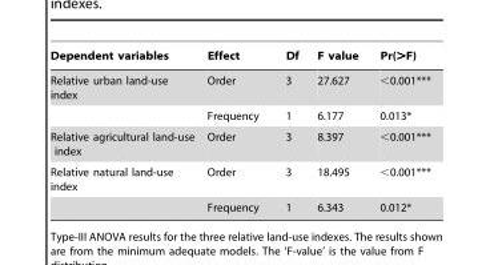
<table><thead><tr><td>Dependent variables</td><td>Effect</td><td>Df</td><td>F value</td><td>Pr(&gt;F)</td></tr></thead><tbody><tr><td rowspan="2">Relative urban land-use index</td><td>Order</td><td>3</td><td>27.627</td><td>&lt;0.001***</td></tr><tr><td>Frequency</td><td>1</td><td>6.177</td><td>0.013*</td></tr><tr><td>Relative agricultural land-use index</td><td>Order</td><td>3</td><td>8.397</td><td>&lt;0.001***</td></tr><tr><td rowspan="2">Relative natural land-use index</td><td>Order</td><td>3</td><td>18.495</td><td>&lt;0.001***</td></tr><tr><td>Frequency</td><td>1</td><td>6.343</td><td>0.012*</td></tr></tbody></table>